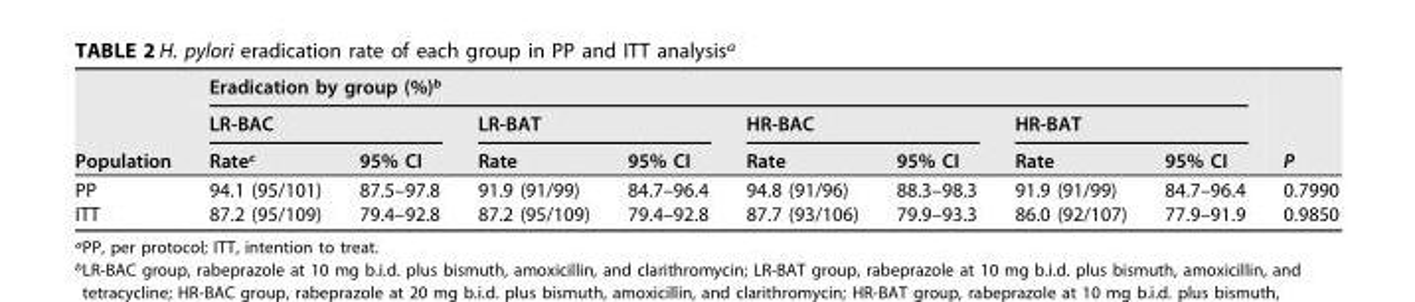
<table><thead><tr><td rowspan="3">Population</td><td colspan="8">Eradication by group (%)<sup>b</sup></td><td rowspan="3">P</td></tr><tr><td colspan="2">LR-BAC</td><td colspan="2">LR-BAT</td><td colspan="2">HR-BAC</td><td colspan="2">HR-BAT</td></tr><tr><td>Rate<sup>c</sup></td><td>95% CI</td><td>Rate</td><td>95% CI</td><td>Rate</td><td>95% CI</td><td>Rate</td><td>95% CI</td></tr></thead><tbody><tr><td>PP</td><td>94.1 (95/101)</td><td>87.5–97.8</td><td>91.9 (91/99)</td><td>84.7–96.4</td><td>94.8 (91/96)</td><td>88.3–98.3</td><td>91.9 (91/99)</td><td>84.7–96.4</td><td>0.7990</td></tr><tr><td>ITT</td><td>87.2 (95/109)</td><td>79.4–92.8</td><td>87.2 (95/109)</td><td>79.4–92.8</td><td>87.7 (93/106)</td><td>79.9–93.3</td><td>86.0 (92/107)</td><td>77.9–91.9</td><td>0.9850</td></tr></tbody></table>